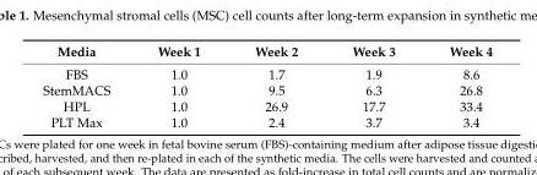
<table><thead><tr><td>Media</td><td>Week 1</td><td>Week 2</td><td>Week 3</td><td>Week 4</td></tr></thead><tbody><tr><td>FBS</td><td>1.0</td><td>1.7</td><td>1.9</td><td>8.6</td></tr><tr><td>StemMACS</td><td>1.0</td><td>9.5</td><td>6.3</td><td>26.8</td></tr><tr><td>HPL</td><td>1.0</td><td>26.9</td><td>17.7</td><td>33.4</td></tr><tr><td>PLT Max</td><td>1.0</td><td>2.4</td><td>3.7</td><td>3.4</td></tr></tbody></table>